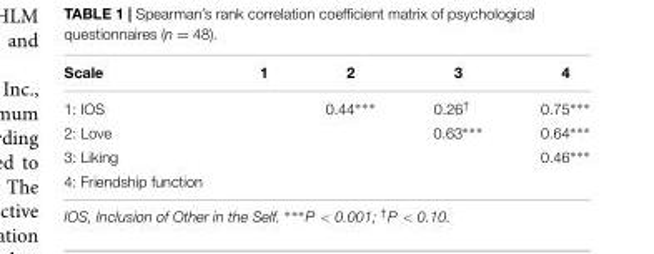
<table><thead><tr><td>Scale</td><td>1</td><td>2</td><td>3</td><td>4</td></tr></thead><tbody><tr><td>1: IOS</td><td></td><td>0.44∗∗∗</td><td>0.26<sup>†</sup></td><td>0.75∗∗∗</td></tr><tr><td>2: Love</td><td></td><td></td><td>0.63∗∗∗</td><td>0.64∗∗∗</td></tr><tr><td>3: Liking</td><td></td><td></td><td></td><td>0.46∗∗∗</td></tr><tr><td>4: Friendship function</td><td></td><td></td><td></td><td></td></tr></tbody></table>